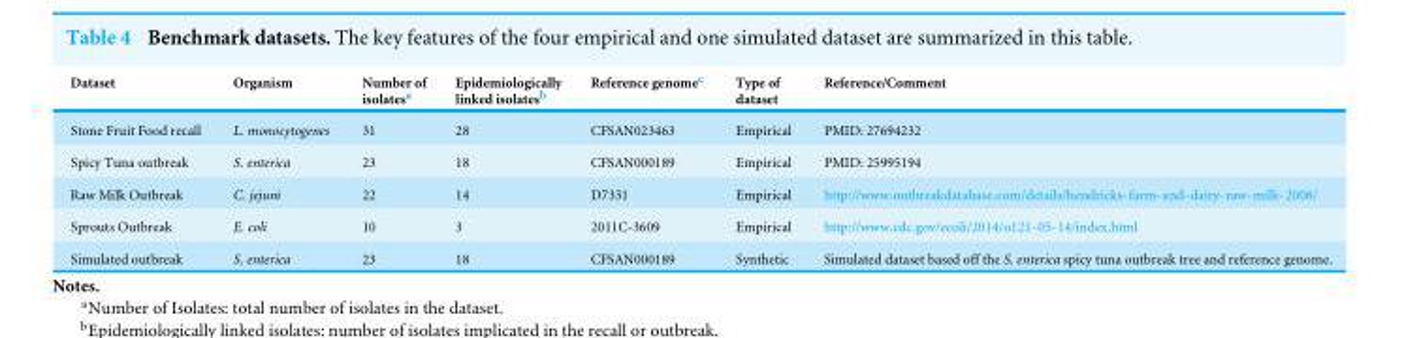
<table><thead><tr><td>Dataset</td><td>Organism</td><td>Number of isolates<sup>a</sup></td><td>Epidemiologically linked isolates<sup>b</sup></td><td>Reference genome<sup>c</sup></td><td>Type of dataset</td><td>Reference/Comment</td></tr></thead><tbody><tr><td>Stone Fruit Food recall</td><td>L. monocytogenes</td><td>31</td><td>28</td><td>CFSAN023463</td><td>Empirical</td><td>PMID: 27694232</td></tr><tr><td>Spicy Tuna outbreak</td><td>S. enterica</td><td>23</td><td>18</td><td>CFSAN000189</td><td>Empirical</td><td>PMID: 25995194</td></tr><tr><td>Raw Milk Outbreak</td><td>C. jejuni</td><td>22</td><td>14</td><td>D7331</td><td>Empirical</td><td>http://www.outbreakdatabase.com/details/hendricks-farm-and-dairy-raw-milk-2008/</td></tr><tr><td>Sprouts Outbreak</td><td>E. coli</td><td>10</td><td>3</td><td>2011C-3609</td><td>Empirical</td><td>http://www.cdc.gov/ecoli/2014/o121-05-14/index.html</td></tr><tr><td>Simulated outbreak</td><td>S. enterica</td><td>23</td><td>18</td><td>CFSAN000189</td><td>Synthetic</td><td>Simulated dataset based off the S. enterica spicy tuna outbreak tree and reference genome.</td></tr></tbody></table>